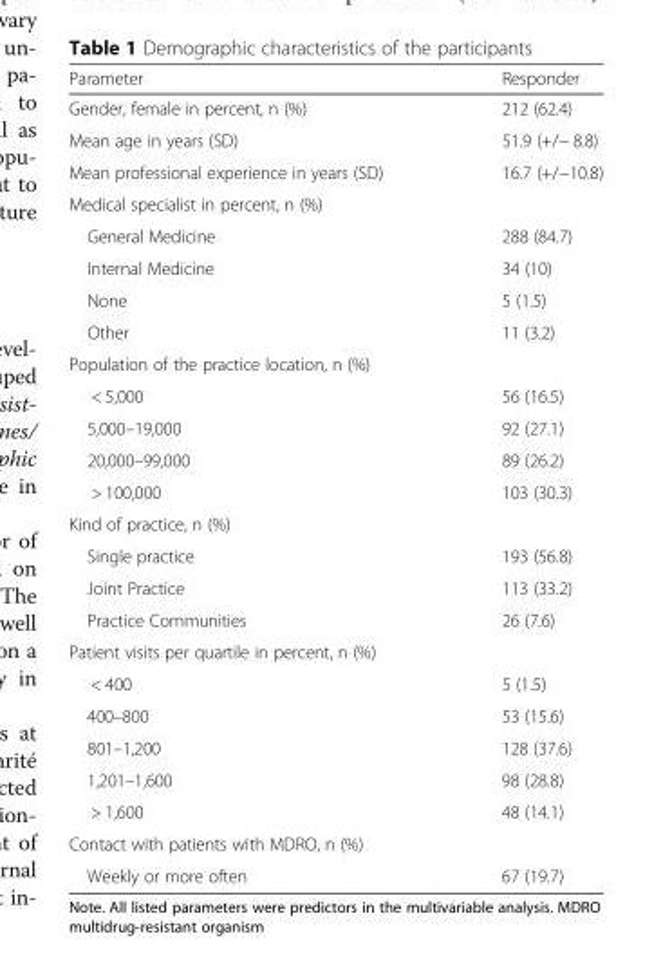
<table><thead><tr><td>Parameter</td><td>Responder</td></tr></thead><tbody><tr><td>Gender, female in percent, n (%)</td><td>212 (62.4)</td></tr><tr><td>Mean age in years (SD)</td><td>51.9 (+/− 8.8)</td></tr><tr><td>Mean professional experience in years (SD)</td><td>16.7 (+/−10.8)</td></tr><tr><td colspan="2">Medical specialist in percent, n (%)</td></tr><tr><td>General Medicine</td><td>288 (84.7)</td></tr><tr><td>Internal Medicine</td><td>34 (10)</td></tr><tr><td>None</td><td>5 (1.5)</td></tr><tr><td>Other</td><td>11 (3.2)</td></tr><tr><td colspan="2">Population of the practice location, n (%)</td></tr><tr><td>&lt; 5,000</td><td>56 (16.5)</td></tr><tr><td>5,000–19,000</td><td>92 (27.1)</td></tr><tr><td>20,000–99,000</td><td>89 (26.2)</td></tr><tr><td>&gt; 100,000</td><td>103 (30.3)</td></tr><tr><td colspan="2">Kind of practice, n (%)</td></tr><tr><td>Single practice</td><td>193 (56.8)</td></tr><tr><td>Joint Practice</td><td>113 (33.2)</td></tr><tr><td>Practice Communities</td><td>26 (7.6)</td></tr><tr><td colspan="2">Patient visits per quartile in percent, n (%)</td></tr><tr><td>&lt; 400</td><td>5 (1.5)</td></tr><tr><td>400–800</td><td>53 (15.6)</td></tr><tr><td>801–1,200</td><td>128 (37.6)</td></tr><tr><td>1,201–1,600</td><td>98 (28.8)</td></tr><tr><td>&gt; 1,600</td><td>48 (14.1)</td></tr><tr><td colspan="2">Contact with patients with MDRO, n (%)</td></tr><tr><td>Weekly or more often</td><td>67 (19.7)</td></tr></tbody></table>